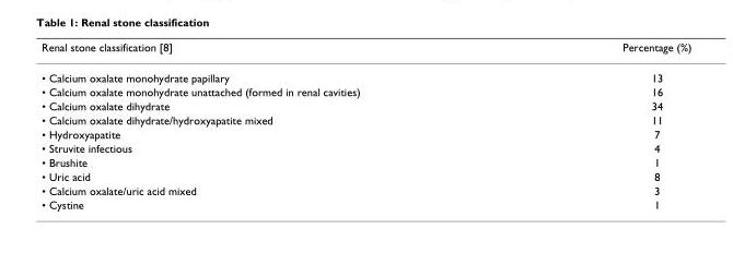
<table><thead><tr><td>Renal stone classification [8]</td><td>Percentage (%)</td></tr></thead><tbody><tr><td>• Calcium oxalate monohydrate papillary</td><td>13</td></tr><tr><td>• Calcium oxalate monohydrate unattached (formed in renal cavities)</td><td>16</td></tr><tr><td>• Calcium oxalate dihydrate</td><td>34</td></tr><tr><td>• Calcium oxalate dihydrate/hydroxyapatite mixed</td><td>11</td></tr><tr><td>• Hydroxyapatite</td><td>7</td></tr><tr><td>• Struvite infectious</td><td>4</td></tr><tr><td>• Brushite</td><td>1</td></tr><tr><td>• Uric acid</td><td>8</td></tr><tr><td>• Calcium oxalate/uric acid mixed</td><td>3</td></tr><tr><td>• Cystine</td><td>1</td></tr></tbody></table>